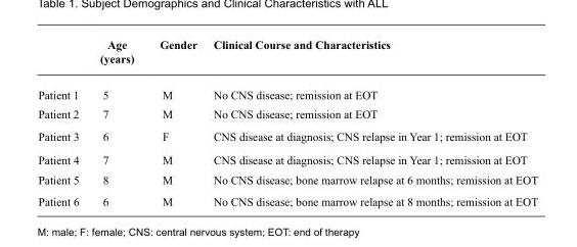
<table><thead><tr><td></td><td>Age (years)</td><td>Gender</td><td>Clinical Course and Characteristics</td></tr></thead><tbody><tr><td>Patient 1</td><td>5</td><td>M</td><td>No CNS disease; remission at EOT</td></tr><tr><td>Patient 2</td><td>7</td><td>M</td><td>No CNS disease; remission at EOT</td></tr><tr><td>Patient 3</td><td>6</td><td>F</td><td>CNS disease at diagnosis; CNS relapse in Year 1; remission at EOT</td></tr><tr><td>Patient 4</td><td>7</td><td>M</td><td>CNS disease at diagnosis; CNS relapse in Year 1; remission at EOT</td></tr><tr><td>Patient 5</td><td>8</td><td>M</td><td>No CNS disease; bone marrow relapse at 6 months; remission at EOT</td></tr><tr><td>Patient 6</td><td>6</td><td>M</td><td>No CNS disease; bone marrow relapse at 8 months; remission at EOT</td></tr></tbody></table>